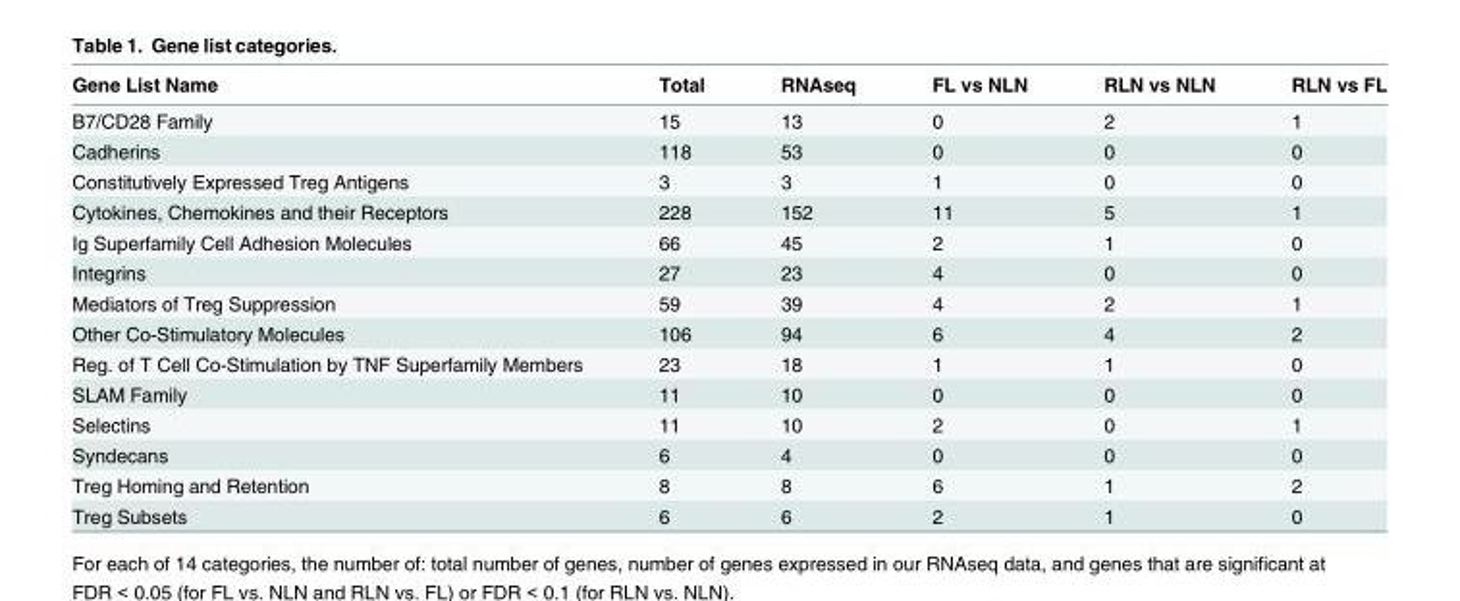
<table><thead><tr><td>Gene List Name</td><td>Total</td><td>RNAseq</td><td>FL vs NLN</td><td>RLN vs NLN</td><td>RLN vs FL</td></tr></thead><tbody><tr><td>B7/CD28 Family</td><td>15</td><td>13</td><td>0</td><td>2</td><td>1</td></tr><tr><td>Cadherins</td><td>118</td><td>53</td><td>0</td><td>0</td><td>0</td></tr><tr><td>Constitutively Expressed Treg Antigens</td><td>3</td><td>3</td><td>1</td><td>0</td><td>0</td></tr><tr><td>Cytokines, Chemokines and their Receptors</td><td>228</td><td>152</td><td>11</td><td>5</td><td>1</td></tr><tr><td>Ig Superfamily Cell Adhesion Molecules</td><td>66</td><td>45</td><td>2</td><td>1</td><td>0</td></tr><tr><td>Integrins</td><td>27</td><td>23</td><td>4</td><td>0</td><td>0</td></tr><tr><td>Mediators of Treg Suppression</td><td>59</td><td>39</td><td>4</td><td>2</td><td>1</td></tr><tr><td>Other Co-Stimulatory Molecules</td><td>106</td><td>94</td><td>6</td><td>4</td><td>2</td></tr><tr><td>Reg. of T Cell Co-Stimulation by TNF Superfamily Members</td><td>23</td><td>18</td><td>1</td><td>1</td><td>0</td></tr><tr><td>SLAM Family</td><td>11</td><td>10</td><td>0</td><td>0</td><td>0</td></tr><tr><td>Selectins</td><td>11</td><td>10</td><td>2</td><td>0</td><td>1</td></tr><tr><td>Syndecans</td><td>6</td><td>4</td><td>0</td><td>0</td><td>0</td></tr><tr><td>Treg Homing and Retention</td><td>8</td><td>8</td><td>6</td><td>1</td><td>2</td></tr><tr><td>Treg Subsets</td><td>6</td><td>6</td><td>2</td><td>1</td><td>0</td></tr></tbody></table>